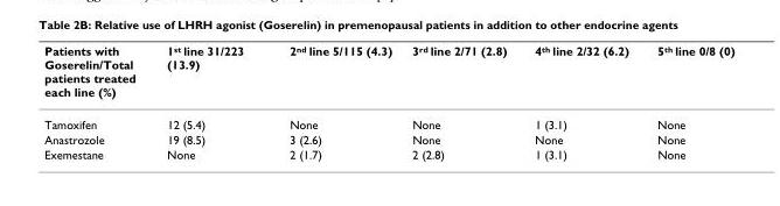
<table><thead><tr><td>Patients with Goserelin/Total patients treated each line (%)</td><td>1<sup>st</sup> line 31/223 (13.9)</td><td>2<sup>nd</sup> line 5/115 (4.3)</td><td>3<sup>rd</sup> line 2/71 (2.8)</td><td>4<sup>th</sup> line 2/32 (6.2)</td><td>5<sup>th</sup> line 0/8 (0)</td></tr></thead><tbody><tr><td>Tamoxifen</td><td>12 (5.4)</td><td>None</td><td>None</td><td>1 (3.1)</td><td>None</td></tr><tr><td>Anastrozole</td><td>19 (8.5)</td><td>3 (2.6)</td><td>None</td><td>None</td><td>None</td></tr><tr><td>Exemestane</td><td>None</td><td>2 (1.7)</td><td>2 (2.8)</td><td>1 (3.1)</td><td>None</td></tr></tbody></table>